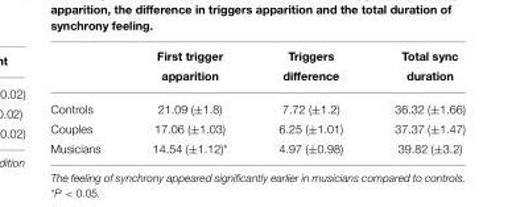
<table><thead><tr><td></td><td>First trigger apparition</td><td>Triggers difference</td><td>Total sync duration</td></tr></thead><tbody><tr><td>Controls</td><td>21.09 (±1.8)</td><td>7.72 (±1.2)</td><td>36.32 (±1.66)</td></tr><tr><td>Couples</td><td>17.06 (±1.03)</td><td>6.25 (±1.01)</td><td>37.37 (±1.47)</td></tr><tr><td>Musicians</td><td>14.54 (±1.12)*</td><td>4.97 (±0.98)</td><td>39.82 (±3.2)</td></tr></tbody></table>